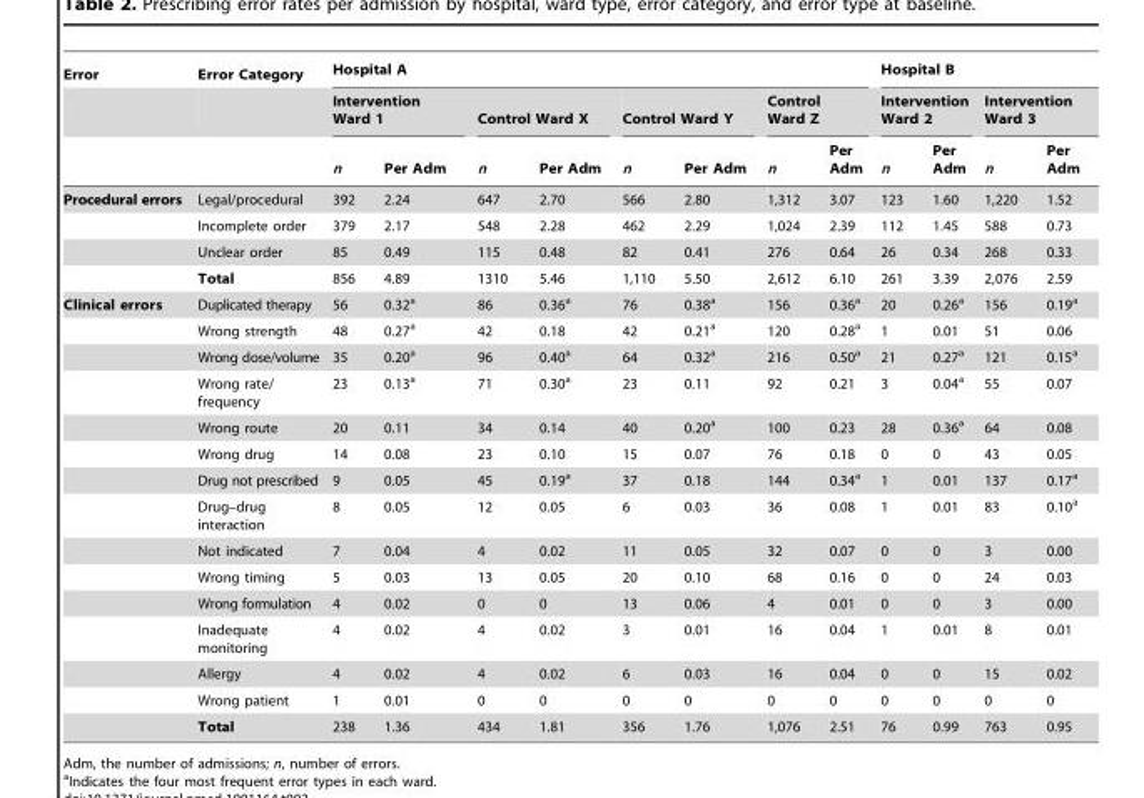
<table><thead><tr><td rowspan="3">Error</td><td rowspan="3">Error Category</td><td colspan="8">Hospital A</td><td colspan="4">Hospital B</td></tr><tr><td colspan="2">Intervention Ward 1</td><td colspan="2">Control Ward X</td><td colspan="2">Control Ward Y</td><td colspan="2">Control Ward Z</td><td colspan="2">Intervention Ward 2</td><td colspan="2">Intervention Ward 3</td></tr><tr><td>n</td><td>Per Adm</td><td>n</td><td>Per Adm</td><td>n</td><td>Per Adm</td><td>n</td><td>Per Adm</td><td>n</td><td>Per Adm</td><td>n</td><td>Per Adm</td></tr></thead><tbody><tr><td rowspan="4">Procedural errors</td><td>Legal/procedural</td><td>392</td><td>2.24</td><td>647</td><td>2.70</td><td>566</td><td>2.80</td><td>1,312</td><td>3.07</td><td>123</td><td>1.60</td><td>1,220</td><td>1.52</td></tr><tr><td>Incomplete order</td><td>379</td><td>2.17</td><td>548</td><td>2.28</td><td>462</td><td>2.29</td><td>1,024</td><td>2.39</td><td>112</td><td>1.45</td><td>588</td><td>0.73</td></tr><tr><td>Unclear order</td><td>85</td><td>0.49</td><td>115</td><td>0.48</td><td>82</td><td>0.41</td><td>276</td><td>0.64</td><td>26</td><td>0.34</td><td>268</td><td>0.33</td></tr><tr><td>Total</td><td>856</td><td>4.89</td><td>1310</td><td>5.46</td><td>1,110</td><td>5.50</td><td>2,612</td><td>6.10</td><td>261</td><td>3.39</td><td>2,076</td><td>2.59</td></tr><tr><td rowspan="15">Clinical errors</td><td>Duplicated therapy</td><td>56</td><td>0.32<sup>a</sup></td><td>86</td><td>0.36<sup>a</sup></td><td>76</td><td>0.38<sup>a</sup></td><td>156</td><td>0.36<sup>a</sup></td><td>20</td><td>0.26<sup>a</sup></td><td>156</td><td>0.19<sup>a</sup></td></tr><tr><td>Wrong strength</td><td>48</td><td>0.27<sup>a</sup></td><td>42</td><td>0.18</td><td>42</td><td>0.21<sup>a</sup></td><td>120</td><td>0.28<sup>a</sup></td><td>1</td><td>0.01</td><td>51</td><td>0.06</td></tr><tr><td>Wrong dose/volume</td><td>35</td><td>0.20<sup>a</sup></td><td>96</td><td>0.40<sup>a</sup></td><td>64</td><td>0.32<sup>a</sup></td><td>216</td><td>0.50<sup>a</sup></td><td>21</td><td>0.27<sup>a</sup></td><td>121</td><td>0.15<sup>a</sup></td></tr><tr><td>Wrong rate/ frequency</td><td>23</td><td>0.13<sup>a</sup></td><td>71</td><td>0.30<sup>a</sup></td><td>23</td><td>0.11</td><td>92</td><td>0.21</td><td>3</td><td>0.04<sup>a</sup></td><td>55</td><td>0.07</td></tr><tr><td>Wrong route</td><td>20</td><td>0.11</td><td>34</td><td>0.14</td><td>40</td><td>0.20<sup>a</sup></td><td>100</td><td>0.23</td><td>28</td><td>0.36<sup>a</sup></td><td>64</td><td>0.08</td></tr><tr><td>Wrong drug</td><td>14</td><td>0.08</td><td>23</td><td>0.10</td><td>15</td><td>0.07</td><td>76</td><td>0.18</td><td>0</td><td>0</td><td>43</td><td>0.05</td></tr><tr><td>Drug not prescribed</td><td>9</td><td>0.05</td><td>45</td><td>0.19<sup>a</sup></td><td>37</td><td>0.18</td><td>144</td><td>0.34<sup>a</sup></td><td>1</td><td>0.01</td><td>137</td><td>0.17<sup>a</sup></td></tr><tr><td>Drug–drug interaction</td><td>8</td><td>0.05</td><td>12</td><td>0.05</td><td>6</td><td>0.03</td><td>36</td><td>0.08</td><td>1</td><td>0.01</td><td>83</td><td>0.10<sup>a</sup></td></tr><tr><td>Not indicated</td><td>7</td><td>0.04</td><td>4</td><td>0.02</td><td>11</td><td>0.05</td><td>32</td><td>0.07</td><td>0</td><td>0</td><td>3</td><td>0.00</td></tr><tr><td>Wrong timing</td><td>5</td><td>0.03</td><td>13</td><td>0.05</td><td>20</td><td>0.10</td><td>68</td><td>0.16</td><td>0</td><td>0</td><td>24</td><td>0.03</td></tr><tr><td>Wrong formulation</td><td>4</td><td>0.02</td><td>0</td><td>0</td><td>13</td><td>0.06</td><td>4</td><td>0.01</td><td>0</td><td>0</td><td>3</td><td>0.00</td></tr><tr><td>Inadequate monitoring</td><td>4</td><td>0.02</td><td>4</td><td>0.02</td><td>3</td><td>0.01</td><td>16</td><td>0.04</td><td>1</td><td>0.01</td><td>8</td><td>0.01</td></tr><tr><td>Allergy</td><td>4</td><td>0.02</td><td>4</td><td>0.02</td><td>6</td><td>0.03</td><td>16</td><td>0.04</td><td>0</td><td>0</td><td>15</td><td>0.02</td></tr><tr><td>Wrong patient</td><td>1</td><td>0.01</td><td>0</td><td>0</td><td>0</td><td>0</td><td>0</td><td>0</td><td>0</td><td>0</td><td>0</td><td>0</td></tr><tr><td>Total</td><td>238</td><td>1.36</td><td>434</td><td>1.81</td><td>356</td><td>1.76</td><td>1,076</td><td>2.51</td><td>76</td><td>0.99</td><td>763</td><td>0.95</td></tr></tbody></table>